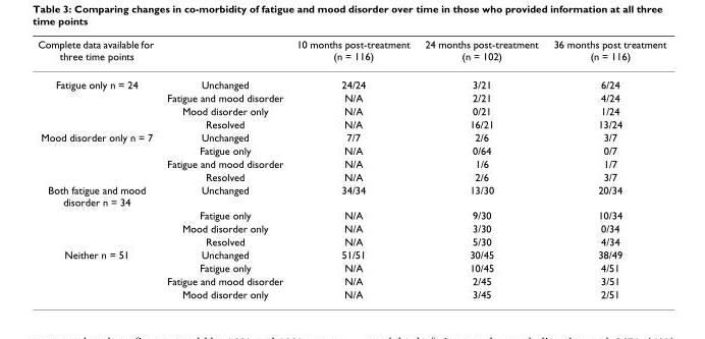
<table><thead><tr><td>Complete data available for three time points</td><td></td><td>10 months post-treatment (n = 116)</td><td>24 months post-treatment (n = 102)</td><td>36 months post treatment (n = 116)</td></tr></thead><tbody><tr><td rowspan="4">Fatigue only n = 24</td><td>Unchanged</td><td>24/24</td><td>3/21</td><td>6/24</td></tr><tr><td>Fatigue and mood disorder</td><td>N/A</td><td>2/21</td><td>4/24</td></tr><tr><td>Mood disorder only</td><td>N/A</td><td>0/21</td><td>1/24</td></tr><tr><td>Resolved</td><td>N/A</td><td>16/21</td><td>13/24</td></tr><tr><td rowspan="4">Mood disorder only n = 7</td><td>Unchanged</td><td>7/7</td><td>2/6</td><td>3/7</td></tr><tr><td>Fatigue only</td><td>N/A</td><td>0/64</td><td>0/7</td></tr><tr><td>Fatigue and mood disorder</td><td>N/A</td><td>1/6</td><td>1/7</td></tr><tr><td>Resolved</td><td>N/A</td><td>2/6</td><td>3/7</td></tr><tr><td rowspan="4">Both fatigue and mood disorder n = 34</td><td>Unchanged</td><td>34/34</td><td>13/30</td><td>20/34</td></tr><tr><td>Fatigue only</td><td>N/A</td><td>9/30</td><td>10/34</td></tr><tr><td>Mood disorder only</td><td>N/A</td><td>3/30</td><td>0/34</td></tr><tr><td>Resolved</td><td>N/A</td><td>5/30</td><td>4/34</td></tr><tr><td rowspan="4">Neither n = 51</td><td>Unchanged</td><td>51/51</td><td>30/45</td><td>38/49</td></tr><tr><td>Fatigue only</td><td>N/A</td><td>10/45</td><td>4/51</td></tr><tr><td>Fatigue and mood disorder</td><td>N/A</td><td>2/45</td><td>3/51</td></tr><tr><td>Mood disorder only</td><td>N/A</td><td>3/45</td><td>2/51</td></tr></tbody></table>